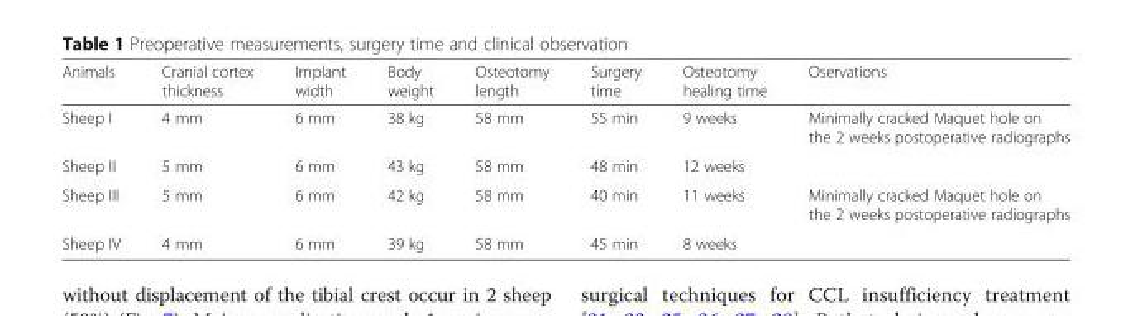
<table><thead><tr><td>Animals</td><td>Cranial cortex thickness</td><td>Implant width</td><td>Body weight</td><td>Osteotomy length</td><td>Surgery time</td><td>Osteotomy healing time</td><td>Oservations</td></tr></thead><tbody><tr><td>Sheep I</td><td>4 mm</td><td>6 mm</td><td>38 kg</td><td>58 mm</td><td>55 min</td><td>9 weeks</td><td>Minimally cracked Maquet hole on the 2 weeks postoperative radiographs</td></tr><tr><td>Sheep II</td><td>5 mm</td><td>6 mm</td><td>43 kg</td><td>58 mm</td><td>48 min</td><td>12 weeks</td><td></td></tr><tr><td>Sheep III</td><td>5 mm</td><td>6 mm</td><td>42 kg</td><td>58 mm</td><td>40 min</td><td>11 weeks</td><td>Minimally cracked Maquet hole on the 2 weeks postoperative radiographs</td></tr><tr><td>Sheep IV</td><td>4 mm</td><td>6 mm</td><td>39 kg</td><td>58 mm</td><td>45 min</td><td>8 weeks</td><td></td></tr></tbody></table>